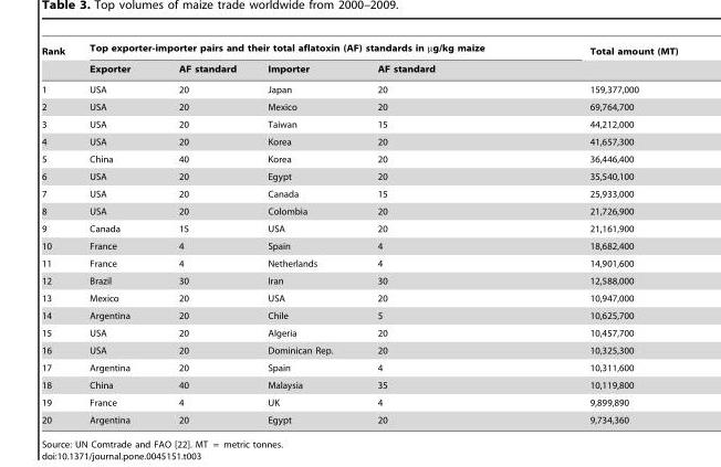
<table><thead><tr><td rowspan="2">Rank</td><td colspan="4">Top exporter-importer pairs and their total aflatoxin (AF) standards in µg/kg maize</td><td rowspan="2">Total amount (MT)</td></tr><tr><td>Exporter</td><td>AF standard</td><td>Importer</td><td>AF standard</td></tr></thead><tbody><tr><td>1</td><td>USA</td><td>20</td><td>Japan</td><td>20</td><td>159,377,000</td></tr><tr><td>2</td><td>USA</td><td>20</td><td>Mexico</td><td>20</td><td>69,764,700</td></tr><tr><td>3</td><td>USA</td><td>20</td><td>Taiwan</td><td>15</td><td>44,212,000</td></tr><tr><td>4</td><td>USA</td><td>20</td><td>Korea</td><td>20</td><td>41,657,300</td></tr><tr><td>5</td><td>China</td><td>40</td><td>Korea</td><td>20</td><td>36,446,400</td></tr><tr><td>6</td><td>USA</td><td>20</td><td>Egypt</td><td>20</td><td>35,540,100</td></tr><tr><td>7</td><td>USA</td><td>20</td><td>Canada</td><td>15</td><td>25,933,000</td></tr><tr><td>8</td><td>USA</td><td>20</td><td>Colombia</td><td>20</td><td>21,726,900</td></tr><tr><td>9</td><td>Canada</td><td>15</td><td>USA</td><td>20</td><td>21,161,900</td></tr><tr><td>10</td><td>France</td><td>4</td><td>Spain</td><td>4</td><td>18,682,400</td></tr><tr><td>11</td><td>France</td><td>4</td><td>Netherlands</td><td>4</td><td>14,901,600</td></tr><tr><td>12</td><td>Brazil</td><td>30</td><td>Iran</td><td>30</td><td>12,588,000</td></tr><tr><td>13</td><td>Mexico</td><td>20</td><td>USA</td><td>20</td><td>10,947,000</td></tr><tr><td>14</td><td>Argentina</td><td>20</td><td>Chile</td><td>5</td><td>10,625,700</td></tr><tr><td>15</td><td>USA</td><td>20</td><td>Algeria</td><td>20</td><td>10,457,700</td></tr><tr><td>16</td><td>USA</td><td>20</td><td>Dominican Rep.</td><td>20</td><td>10,325,300</td></tr><tr><td>17</td><td>Argentina</td><td>20</td><td>Spain</td><td>4</td><td>10,311,600</td></tr><tr><td>18</td><td>China</td><td>40</td><td>Malaysia</td><td>35</td><td>10,119,800</td></tr><tr><td>19</td><td>France</td><td>4</td><td>UK</td><td>4</td><td>9,899,890</td></tr><tr><td>20</td><td>Argentina</td><td>20</td><td>Egypt</td><td>20</td><td>9,734,360</td></tr></tbody></table>